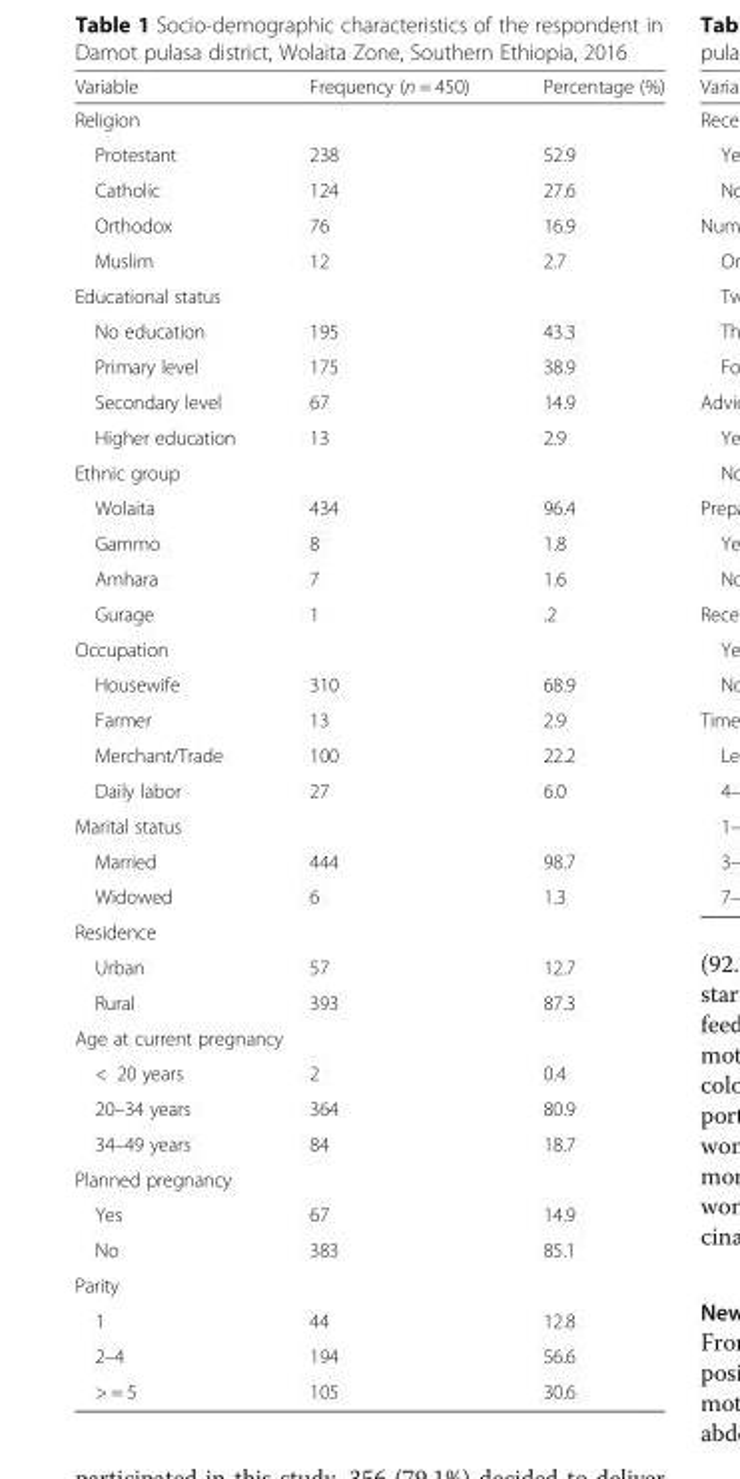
<table><thead><tr><td>Variable</td><td>Frequency (n = 450)</td><td>Percentage (%)</td></tr></thead><tbody><tr><td colspan="3">Religion</td></tr><tr><td>Protestant</td><td>238</td><td>52.9</td></tr><tr><td>Catholic</td><td>124</td><td>27.6</td></tr><tr><td>Orthodox</td><td>76</td><td>16.9</td></tr><tr><td>Muslim</td><td>12</td><td>2.7</td></tr><tr><td colspan="3">Educational status</td></tr><tr><td>No education</td><td>195</td><td>43.3</td></tr><tr><td>Primary level</td><td>175</td><td>38.9</td></tr><tr><td>Secondary level</td><td>67</td><td>14.9</td></tr><tr><td>Higher education</td><td>13</td><td>2.9</td></tr><tr><td colspan="3">Ethnic group</td></tr><tr><td>Wolaita</td><td>434</td><td>96.4</td></tr><tr><td>Gammo</td><td>8</td><td>1.8</td></tr><tr><td>Amhara</td><td>7</td><td>1.6</td></tr><tr><td>Gurage</td><td>1</td><td>.2</td></tr><tr><td colspan="3">Occupation</td></tr><tr><td>Housewife</td><td>310</td><td>68.9</td></tr><tr><td>Farmer</td><td>13</td><td>2.9</td></tr><tr><td>Merchant/Trade</td><td>100</td><td>22.2</td></tr><tr><td>Daily labor</td><td>27</td><td>6.0</td></tr><tr><td colspan="3">Marital status</td></tr><tr><td>Married</td><td>444</td><td>98.7</td></tr><tr><td>Widowed</td><td>6</td><td>1.3</td></tr><tr><td colspan="3">Residence</td></tr><tr><td>Urban</td><td>57</td><td>12.7</td></tr><tr><td>Rural</td><td>393</td><td>87.3</td></tr><tr><td colspan="3">Age at current pregnancy</td></tr><tr><td>&lt; 20 years</td><td>2</td><td>0.4</td></tr><tr><td>20–34 years</td><td>364</td><td>80.9</td></tr><tr><td>34–49 years</td><td>84</td><td>18.7</td></tr><tr><td colspan="3">Planned pregnancy</td></tr><tr><td>Yes</td><td>67</td><td>14.9</td></tr><tr><td>No</td><td>383</td><td>85.1</td></tr><tr><td colspan="3">Parity</td></tr><tr><td>1</td><td>44</td><td>12.8</td></tr><tr><td>2–4</td><td>194</td><td>56.6</td></tr><tr><td>&gt; = 5</td><td>105</td><td>30.6</td></tr></tbody></table>